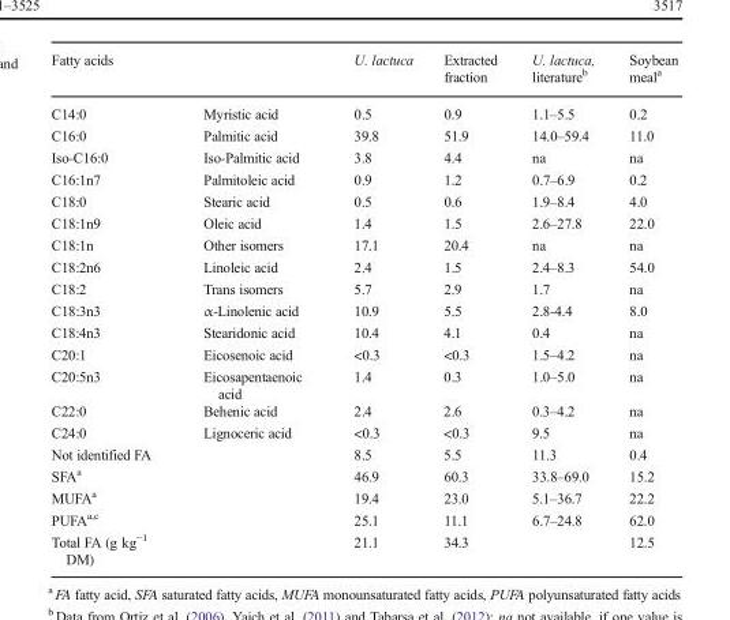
<table><thead><tr><td>Fatty acids</td><td></td><td>U. lactuca</td><td>Extracted fraction</td><td>U. lactuca, literature<sup>b</sup></td><td>Soybean meal<sup>a</sup></td></tr></thead><tbody><tr><td>C14:0</td><td>Myristic acid</td><td>0.5</td><td>0.9</td><td>1.1–5.5</td><td>0.2</td></tr><tr><td>C16:0</td><td>Palmitic acid</td><td>39.8</td><td>51.9</td><td>14.0–59.4</td><td>11.0</td></tr><tr><td>Iso-C16:0</td><td>Iso-Palmitic acid</td><td>3.8</td><td>4.4</td><td>na</td><td>na</td></tr><tr><td>C16:1n7</td><td>Palmitoleic acid</td><td>0.9</td><td>1.2</td><td>0.7–6.9</td><td>0.2</td></tr><tr><td>C18:0</td><td>Stearic acid</td><td>0.5</td><td>0.6</td><td>1.9–8.4</td><td>4.0</td></tr><tr><td>C18:1n9</td><td>Oleic acid</td><td>1.4</td><td>1.5</td><td>2.6–27.8</td><td>22.0</td></tr><tr><td>C18:1n</td><td>Other isomers</td><td>17.1</td><td>20.4</td><td>na</td><td>na</td></tr><tr><td>C18:2n6</td><td>Linoleic acid</td><td>2.4</td><td>1.5</td><td>2.4–8.3</td><td>54.0</td></tr><tr><td>C18:2</td><td>Trans isomers</td><td>5.7</td><td>2.9</td><td>1.7</td><td>na</td></tr><tr><td>C18:3n3</td><td>α-Linolenic acid</td><td>10.9</td><td>5.5</td><td>2.8-4.4</td><td>8.0</td></tr><tr><td>C18:4n3</td><td>Stearidonic acid</td><td>10.4</td><td>4.1</td><td>0.4</td><td>na</td></tr><tr><td>C20:1</td><td>Eicosenoic acid</td><td>&lt;0.3</td><td>&lt;0.3</td><td>1.5–4.2</td><td>na</td></tr><tr><td>C20:5n3</td><td>Eicosapentaenoic acid</td><td>1.4</td><td>0.3</td><td>1.0–5.0</td><td>na</td></tr><tr><td>C22:0</td><td>Behenic acid</td><td>2.4</td><td>2.6</td><td>0.3–4.2</td><td>na</td></tr><tr><td>C24:0</td><td>Lignoceric acid</td><td>&lt;0.3</td><td>&lt;0.3</td><td>9.5</td><td>na</td></tr><tr><td>Not identified FA</td><td></td><td>8.5</td><td>5.5</td><td>11.3</td><td>0.4</td></tr><tr><td>SFA<sup>a</sup></td><td></td><td>46.9</td><td>60.3</td><td>33.8–69.0</td><td>15.2</td></tr><tr><td>MUFA<sup>a</sup></td><td></td><td>19.4</td><td>23.0</td><td>5.1–36.7</td><td>22.2</td></tr><tr><td>PUFA<sup>a,c</sup></td><td></td><td>25.1</td><td>11.1</td><td>6.7–24.8</td><td>62.0</td></tr><tr><td>Total FA (g kg<sup>−1</sup> DM)</td><td></td><td>21.1</td><td>34.3</td><td></td><td>12.5</td></tr></tbody></table>